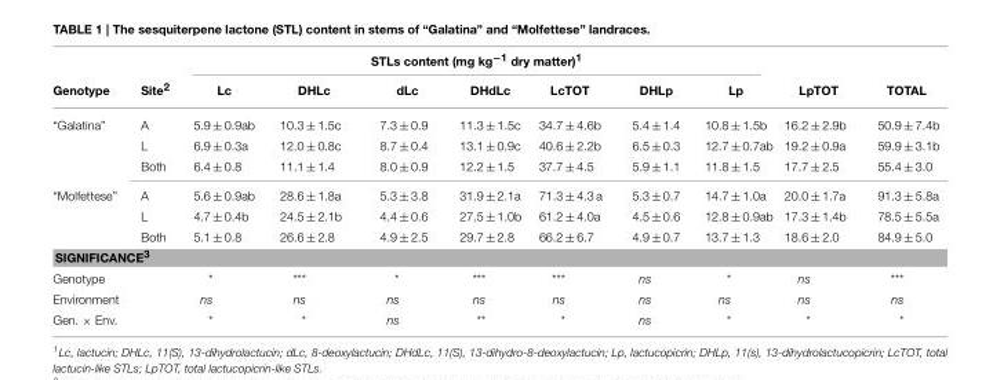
<table><thead><tr><td rowspan="2">Genotype</td><td rowspan="2">Site<sup>2</sup></td><td colspan="7">STLs content (mg kg<sup>−1</sup> dry matter)<sup>1</sup></td><td rowspan="2">LpTOT</td><td rowspan="2">TOTAL</td></tr><tr><td>Lc</td><td>DHLc</td><td>dLc</td><td>DHdLc</td><td>LcTOT</td><td>DHLp</td><td>Lp</td></tr></thead><tbody><tr><td rowspan="3">“Galatina”</td><td>A</td><td>5.9 ± 0.9ab</td><td>10.3 ± 1.5c</td><td>7.3 ± 0.9</td><td>11.3 ± 1.5c</td><td>34.7 ± 4.6b</td><td>5.4 ± 1.4</td><td>10.8 ± 1.5b</td><td>16.2 ± 2.9b</td><td>50.9 ± 7.4b</td></tr><tr><td>L</td><td>6.9 ± 0.3a</td><td>12.0 ± 0.8c</td><td>8.7 ± 0.4</td><td>13.1 ± 0.9c</td><td>40.6 ± 2.2b</td><td>6.5 ± 0.3</td><td>12.7 ± 0.7ab</td><td>19.2 ± 0.9a</td><td>59.9 ± 3.1b</td></tr><tr><td>Both</td><td>6.4 ± 0.8</td><td>11.1 ± 1.4</td><td>8.0 ± 0.9</td><td>12.2 ± 1.5</td><td>37.7 ± 4.5</td><td>5.9 ± 1.1</td><td>11.8 ± 1.5</td><td>17.7 ± 2.5</td><td>55.4 ± 3.0</td></tr><tr><td rowspan="3">“Molfettese”</td><td>A</td><td>5.6 ± 0.9ab</td><td>28.6 ± 1.8a</td><td>5.3 ± 3.8</td><td>31.9 ± 2.1a</td><td>71.3 ± 4.3 a</td><td>5.3 ± 0.7</td><td>14.7 ± 1.0a</td><td>20.0 ± 1.7a</td><td>91.3 ± 5.8a</td></tr><tr><td>L</td><td>4.7 ± 0.4b</td><td>24.5 ± 2.1b</td><td>4.4 ± 0.6</td><td>27.5 ± 1.0b</td><td>61.2 ± 4.0a</td><td>4.5 ± 0.6</td><td>12.8 ± 0.9ab</td><td>17.3 ± 1.4b</td><td>78.5 ± 5.5a</td></tr><tr><td>Both</td><td>5.1 ± 0.8</td><td>26.6 ± 2.8</td><td>4.9 ± 2.5</td><td>29.7 ± 2.8</td><td>66.2 ± 6.7</td><td>4.9 ± 0.7</td><td>13.7 ± 1.3</td><td>18.6 ± 2.0</td><td>84.9 ± 5.0</td></tr><tr><td colspan="11">SIGNIFICANCE<sup>3</sup></td></tr><tr><td>Genotype</td><td></td><td>*</td><td>***</td><td>*</td><td>***</td><td>***</td><td>ns</td><td>*</td><td>ns</td><td>***</td></tr><tr><td>Environment</td><td></td><td>ns</td><td>ns</td><td>ns</td><td>ns</td><td>ns</td><td>ns</td><td>ns</td><td>ns</td><td>ns</td></tr><tr><td>Gen. × Env.</td><td></td><td>*</td><td>*</td><td>ns</td><td>**</td><td>*</td><td>ns</td><td>*</td><td>*</td><td>*</td></tr></tbody></table>